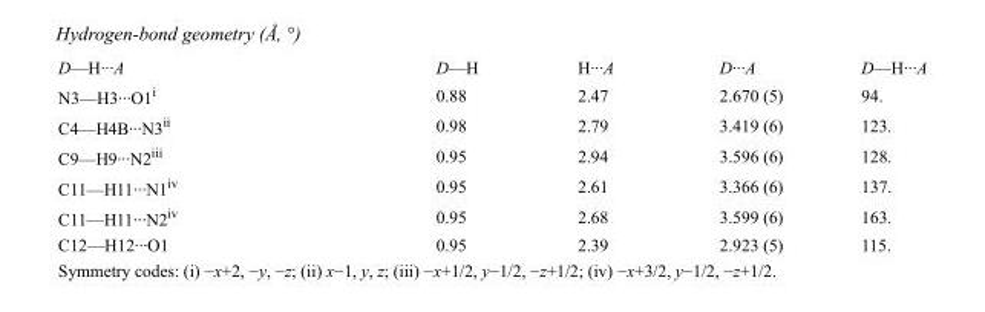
<table><tbody><tr><td>D—H···A</td><td>D—H</td><td>H···A</td><td>D···A</td><td>D—H···A</td></tr><tr><td>N3—H3···O1<sup>i</sup></td><td>0.88</td><td>2.47</td><td>2.670 (5)</td><td>94.</td></tr><tr><td>C4—H4B···N3<sup>ii</sup></td><td>0.98</td><td>2.79</td><td>3.419 (6)</td><td>123.</td></tr><tr><td>C9—H9···N2<sup>iii</sup></td><td>0.95</td><td>2.94</td><td>3.596 (6)</td><td>128.</td></tr><tr><td>C11—H11···N1<sup>iv</sup></td><td>0.95</td><td>2.61</td><td>3.366 (6)</td><td>137.</td></tr><tr><td>C11—H11···N2<sup>iv</sup></td><td>0.95</td><td>2.68</td><td>3.599 (6)</td><td>163.</td></tr><tr><td>C12—H12···O1</td><td>0.95</td><td>2.39</td><td>2.923 (5)</td><td>115.</td></tr></tbody></table>